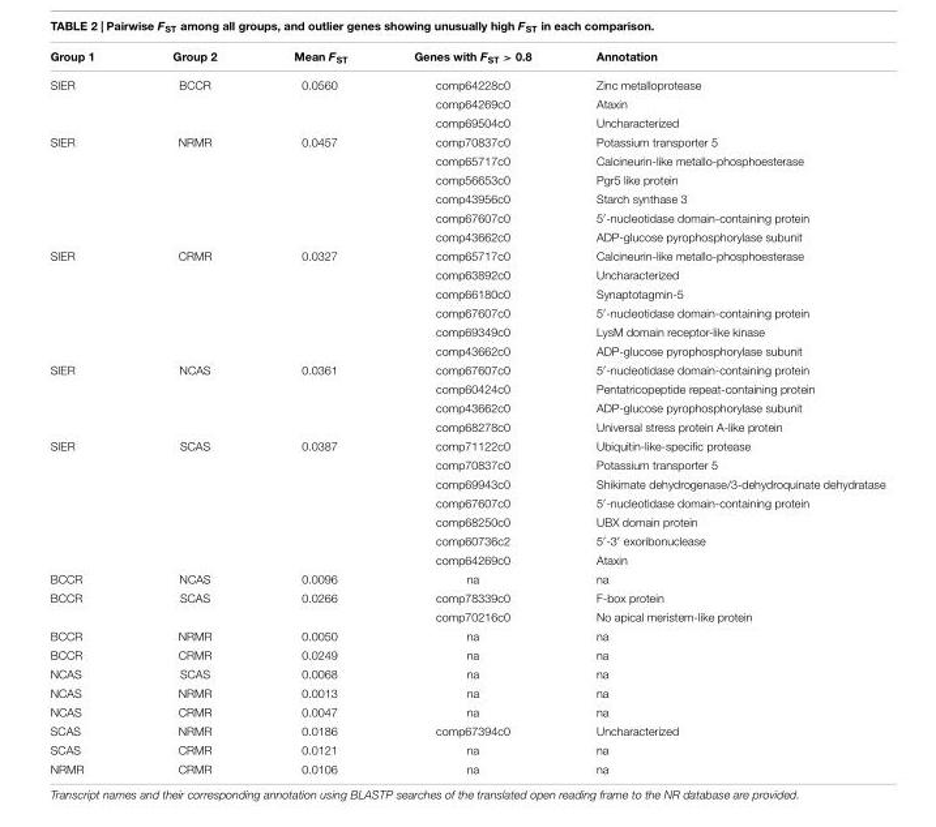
<table><thead><tr><td>Group 1</td><td>Group 2</td><td>Mean F<sub>ST</sub></td><td>Genes with F<sub>ST</sub> &gt; 0.8</td><td>Annotation</td></tr></thead><tbody><tr><td rowspan="3">SIER</td><td>BCCR</td><td>0.0560</td><td>comp64228c0</td><td>Zinc metalloprotease</td></tr><tr><td></td><td></td><td>comp64269c0</td><td>Ataxin</td></tr><tr><td></td><td></td><td>comp69504c0</td><td>Uncharacterized</td></tr><tr><td rowspan="6">SIER</td><td>NRMR</td><td>0.0457</td><td>comp70837c0</td><td>Potassium transporter 5</td></tr><tr><td></td><td></td><td>comp65717c0</td><td>Calcineurin-like metallo-phosphoesterase</td></tr><tr><td></td><td></td><td>comp56653c0</td><td>Pgr5 like protein</td></tr><tr><td></td><td></td><td>comp43956c0</td><td>Starch synthase 3</td></tr><tr><td></td><td></td><td>comp67607c0</td><td>5′-nucleotidase domain-containing protein</td></tr><tr><td></td><td></td><td>comp43662c0</td><td>ADP-glucose pyrophosphorylase subunit</td></tr><tr><td rowspan="6">SIER</td><td>CRMR</td><td>0.0327</td><td>comp65717c0</td><td>Calcineurin-like metallo-phosphoesterase</td></tr><tr><td></td><td></td><td>comp63892c0</td><td>Uncharacterized</td></tr><tr><td></td><td></td><td>comp66180c0</td><td>Synaptotagmin-5</td></tr><tr><td></td><td></td><td>comp67607c0</td><td>5′-nucleotidase domain-containing protein</td></tr><tr><td></td><td></td><td>comp69349c0</td><td>LysM domain receptor-like kinase</td></tr><tr><td></td><td></td><td>comp43662c0</td><td>ADP-glucose pyrophosphorylase subunit</td></tr><tr><td rowspan="4">SIER</td><td>NCAS</td><td>0.0361</td><td>comp67607c0</td><td>5′-nucleotidase domain-containing protein</td></tr><tr><td></td><td></td><td>comp60424c0</td><td>Pentatricopeptide repeat-containing protein</td></tr><tr><td></td><td></td><td>comp43662c0</td><td>ADP-glucose pyrophosphorylase subunit</td></tr><tr><td></td><td></td><td>comp68278c0</td><td>Universal stress protein A-like protein</td></tr><tr><td rowspan="7">SIER</td><td>SCAS</td><td>0.0387</td><td>comp71122c0</td><td>Ubiquitin-like-specific protease</td></tr><tr><td></td><td></td><td>comp70837c0</td><td>Potassium transporter 5</td></tr><tr><td></td><td></td><td>comp69943c0</td><td>Shikimate dehydrogenase/3-dehydroquinate dehydratase</td></tr><tr><td></td><td></td><td>comp67607c0</td><td>5′-nucleotidase domain-containing protein</td></tr><tr><td></td><td></td><td>comp68250c0</td><td>UBX domain protein</td></tr><tr><td></td><td></td><td>comp60736c2</td><td>5′-3′ exoribonuclease</td></tr><tr><td></td><td></td><td>comp64269c0</td><td>Ataxin</td></tr><tr><td>BCCR</td><td>NCAS</td><td>0.0096</td><td>na</td><td>na</td></tr><tr><td rowspan="2">BCCR</td><td>SCAS</td><td>0.0266</td><td>comp78339c0</td><td>F-box protein</td></tr><tr><td></td><td></td><td>comp70216c0</td><td>No apical meristem-like protein</td></tr><tr><td>BCCR</td><td>NRMR</td><td>0.0050</td><td>na</td><td>na</td></tr><tr><td>BCCR</td><td>CRMR</td><td>0.0249</td><td>na</td><td>na</td></tr><tr><td>NCAS</td><td>SCAS</td><td>0.0068</td><td>na</td><td>na</td></tr><tr><td>NCAS</td><td>NRMR</td><td>0.0013</td><td>na</td><td>na</td></tr><tr><td>NCAS</td><td>CRMR</td><td>0.0047</td><td>na</td><td>na</td></tr><tr><td>SCAS</td><td>NRMR</td><td>0.0186</td><td>comp67394c0</td><td>Uncharacterized</td></tr><tr><td>SCAS</td><td>CRMR</td><td>0.0121</td><td>na</td><td>na</td></tr><tr><td>NRMR</td><td>CRMR</td><td>0.0106</td><td>na</td><td>na</td></tr></tbody></table>